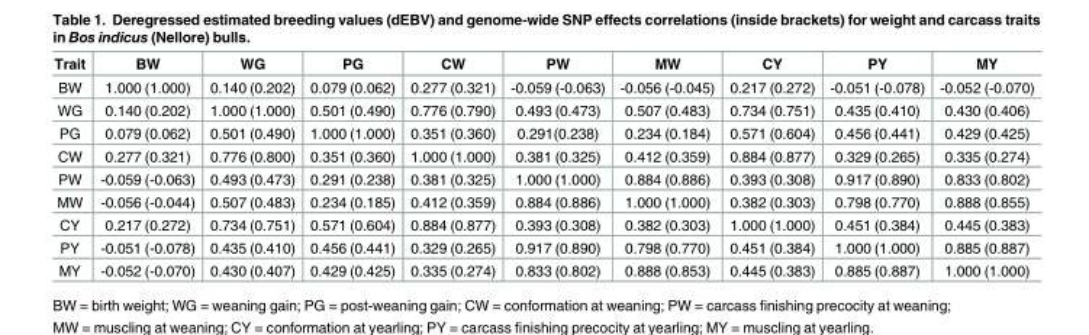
<table><thead><tr><td>Trait</td><td>BW</td><td>WG</td><td>PG</td><td>CW</td><td>PW</td><td>MW</td><td>CY</td><td>PY</td><td>MY</td></tr></thead><tbody><tr><td>BW</td><td>1.000 (1.000)</td><td>0.140 (0.202)</td><td>0.079 (0.062)</td><td>0.277 (0.321)</td><td>-0.059 (-0.063)</td><td>-0.056 (-0.045)</td><td>0.217 (0.272)</td><td>-0.051 (-0.078)</td><td>-0.052 (-0.070)</td></tr><tr><td>WG</td><td>0.140 (0.202)</td><td>1.000 (1.000)</td><td>0.501 (0.490)</td><td>0.776 (0.790)</td><td>0.493 (0.473)</td><td>0.507 (0.483)</td><td>0.734 (0.751)</td><td>0.435 (0.410)</td><td>0.430 (0.406)</td></tr><tr><td>PG</td><td>0.079 (0.062)</td><td>0.501 (0.490)</td><td>1.000 (1.000)</td><td>0.351 (0.360)</td><td>0.291(0.238)</td><td>0.234 (0.184)</td><td>0.571 (0.604)</td><td>0.456 (0.441)</td><td>0.429 (0.425)</td></tr><tr><td>CW</td><td>0.277 (0.321)</td><td>0.776 (0.800)</td><td>0.351 (0.360)</td><td>1.000 (1.000)</td><td>0.381 (0.325)</td><td>0.412 (0.359)</td><td>0.884 (0.877)</td><td>0.329 (0.265)</td><td>0.335 (0.274)</td></tr><tr><td>PW</td><td>-0.059 (-0.063)</td><td>0.493 (0.473)</td><td>0.291 (0.238)</td><td>0.381 (0.325)</td><td>1.000 (1.000)</td><td>0.884 (0.886)</td><td>0.393 (0.308)</td><td>0.917 (0.890)</td><td>0.833 (0.802)</td></tr><tr><td>MW</td><td>-0.056 (-0.044)</td><td>0.507 (0.483)</td><td>0.234 (0.185)</td><td>0.412 (0.359)</td><td>0.884 (0.886)</td><td>1.000 (1.000)</td><td>0.382 (0.303)</td><td>0.798 (0.770)</td><td>0.888 (0.855)</td></tr><tr><td>CY</td><td>0.217 (0.272)</td><td>0.734 (0.751)</td><td>0.571 (0.604)</td><td>0.884 (0.877)</td><td>0.393 (0.308)</td><td>0.382 (0.303)</td><td>1.000 (1.000)</td><td>0.451 (0.384)</td><td>0.445 (0.383)</td></tr><tr><td>PY</td><td>-0.051 (-0.078)</td><td>0.435 (0.410)</td><td>0.456 (0.441)</td><td>0.329 (0.265)</td><td>0.917 (0.890)</td><td>0.798 (0.770)</td><td>0.451 (0.384)</td><td>1.000 (1.000)</td><td>0.885 (0.887)</td></tr><tr><td>MY</td><td>-0.052 (-0.070)</td><td>0.430 (0.407)</td><td>0.429 (0.425)</td><td>0.335 (0.274)</td><td>0.833 (0.802)</td><td>0.888 (0.853)</td><td>0.445 (0.383)</td><td>0.885 (0.887)</td><td>1.000 (1.000)</td></tr></tbody></table>